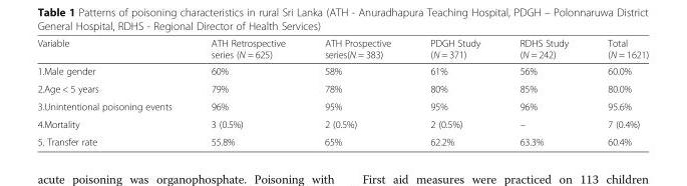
<table><thead><tr><td>Variable</td><td>ATH Retrospective series (N = 625)</td><td>ATH Prospective series(N = 383)</td><td>PDGH Study (N = 371)</td><td>RDHS Study (N = 242)</td><td>Total (N = 1621)</td></tr></thead><tbody><tr><td>1.Male gender</td><td>60%</td><td>58%</td><td>61%</td><td>56%</td><td>60.0%</td></tr><tr><td>2.Age &lt; 5 years</td><td>79%</td><td>78%</td><td>80%</td><td>85%</td><td>80.0%</td></tr><tr><td>3.Unintentional poisoning events</td><td>96%</td><td>95%</td><td>95%</td><td>96%</td><td>95.6%</td></tr><tr><td>4.Mortality</td><td>3 (0.5%)</td><td>2 (0.5%)</td><td>2 (0.5%)</td><td>–</td><td>7 (0.4%)</td></tr><tr><td>5. Transfer rate</td><td>55.8%</td><td>65%</td><td>62.2%</td><td>63.3%</td><td>60.4%</td></tr></tbody></table>